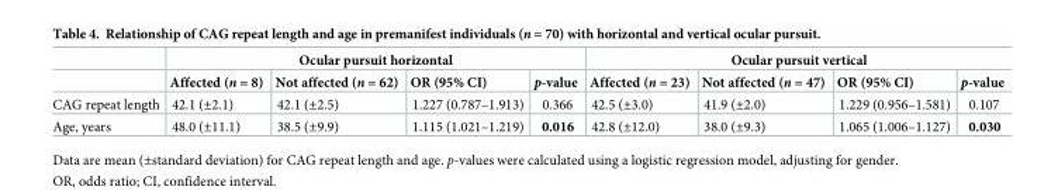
<table><thead><tr><td rowspan="2"></td><td colspan="4">Ocular pursuit horizontal</td><td colspan="4">Ocular pursuit vertical</td></tr><tr><td>Affected (n = 8)</td><td>Not affected (n = 62)</td><td>OR (95% CI)</td><td>p-value</td><td>Affected (n = 23)</td><td>Not affected (n = 47)</td><td>OR (95% CI)</td><td>p-value</td></tr></thead><tbody><tr><td>CAG repeat length</td><td>42.1 (±2.1)</td><td>42.1 (±2.5)</td><td>1.227 (0.787–1.913)</td><td>0.366</td><td>42.5 (±3.0)</td><td>41.9 (±2.0)</td><td>1.229 (0.956–1.581)</td><td>0.107</td></tr><tr><td>Age, years</td><td>48.0 (±11.1)</td><td>38.5 (±9.9)</td><td>1.115 (1.021–1.219)</td><td>0.016</td><td>42.8 (±12.0)</td><td>38.0 (±9.3)</td><td>1.065 (1.006–1.127)</td><td>0.030</td></tr></tbody></table>